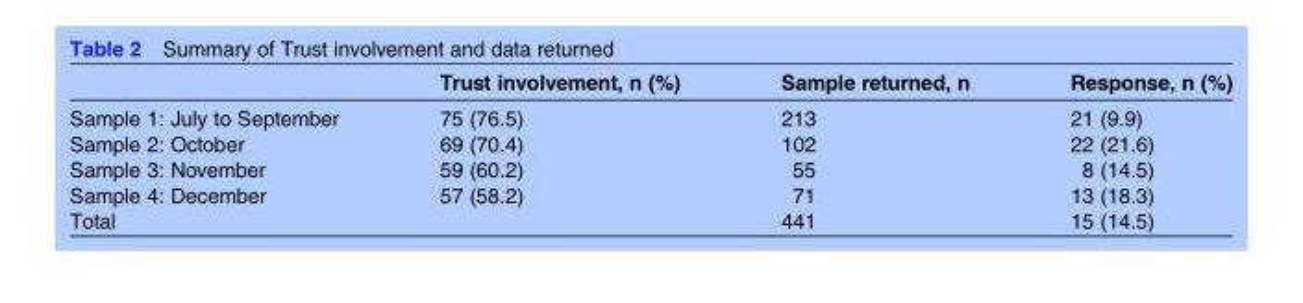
<table><thead><tr><td></td><td>Trust involvement, n (%)</td><td>Sample returned, n</td><td>Response, n (%)</td></tr></thead><tbody><tr><td>Sample 1: July to September</td><td>75 (76.5)</td><td>213</td><td>21 (9.9)</td></tr><tr><td>Sample 2: October</td><td>69 (70.4)</td><td>102</td><td>22 (21.6)</td></tr><tr><td>Sample 3: November</td><td>59 (60.2)</td><td>55</td><td>8 (14.5)</td></tr><tr><td>Sample 4: December</td><td>57 (58.2)</td><td>71</td><td>13 (18.3)</td></tr><tr><td>Total</td><td></td><td>441</td><td>15 (14.5)</td></tr></tbody></table>